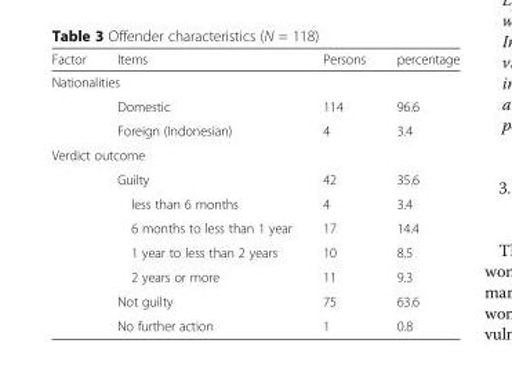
<table><thead><tr><td>Factor</td><td>Items</td><td>Persons</td><td>percentage</td></tr></thead><tbody><tr><td colspan="4">Nationalities</td></tr><tr><td rowspan="2"></td><td>Domestic</td><td>114</td><td>96.6</td></tr><tr><td>Foreign (Indonesian)</td><td>4</td><td>3.4</td></tr><tr><td colspan="4">Verdict outcome</td></tr><tr><td rowspan="7"></td><td>Guilty</td><td>42</td><td>35.6</td></tr><tr><td>less than 6 months</td><td>4</td><td>3.4</td></tr><tr><td>6 months to less than 1 year</td><td>17</td><td>14.4</td></tr><tr><td>1 year to less than 2 years</td><td>10</td><td>8.5</td></tr><tr><td>2 years or more</td><td>11</td><td>9.3</td></tr><tr><td>Not guilty</td><td>75</td><td>63.6</td></tr><tr><td>No further action</td><td>1</td><td>0.8</td></tr></tbody></table>